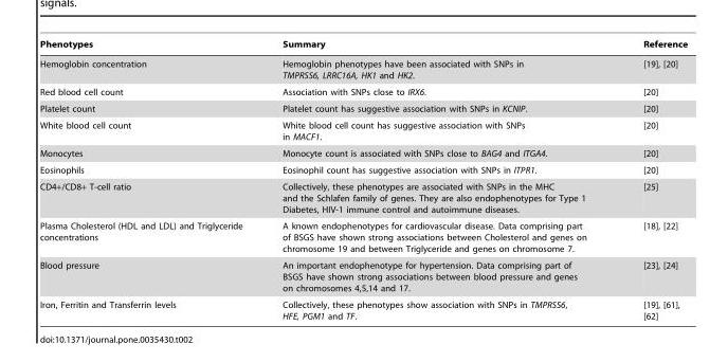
<table><thead><tr><td>Phenotypes</td><td>Summary</td><td>Reference</td></tr></thead><tbody><tr><td>Hemoglobin concentration</td><td>Hemoglobin phenotypes have been associated with SNPs in TMPRSS6, LRRC16A, HK1 and HK2.</td><td>[19], [20]</td></tr><tr><td>Red blood cell count</td><td>Association with SNPs close to IRX6.</td><td>[20]</td></tr><tr><td>Platelet count</td><td>Platelet count has suggestive association with SNPs in KCNIP.</td><td>[20]</td></tr><tr><td>White blood cell count</td><td>White blood cell count has suggestive association with SNPs in MACF1.</td><td>[20]</td></tr><tr><td>Monocytes</td><td>Monocyte count is associated with SNPs close to BAG4 and ITGA4.</td><td>[20]</td></tr><tr><td>Eosinophils</td><td>Eosinophil count has suggestive association with SNPs in ITPR1.</td><td>[20]</td></tr><tr><td>CD4+/CD8+ T-cell ratio</td><td>Collectively, these phenotypes are associated with SNPs in the MHC and the Schlafen family of genes. They are also endophenotypes for Type 1 Diabetes, HIV-1 immune control and autoimmune diseases.</td><td>[25]</td></tr><tr><td>Plasma Cholesterol (HDL and LDL) and Triglyceride concentrations</td><td>A known endophenotypes for cardiovascular disease. Data comprising part of BSGS have shown strong associations between Cholesterol and genes on chromosome 19 and between Triglyceride and genes on chromosome 7.</td><td>[18], [22]</td></tr><tr><td>Blood pressure</td><td>An important endophenotype for hypertension. Data comprising part of BSGS have shown strong associations between blood pressure and genes on chromosomes 4,5,14 and 17.</td><td>[23], [24]</td></tr><tr><td>Iron, Ferritin and Transferrin levels</td><td>Collectively, these phenotypes show association with SNPs in TMPRSS6, HFE, PGM1 and TF.</td><td>[19], [61], [62]</td></tr></tbody></table>